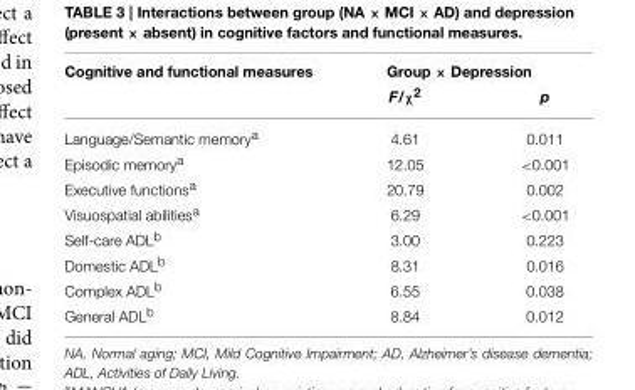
<table><thead><tr><td rowspan="2">Cognitive and functional measures</td><td colspan="2">Group × Depression</td></tr><tr><td>F/χ<sup>2</sup></td><td>p</td></tr></thead><tbody><tr><td>Language/Semantic memory<sup>a</sup></td><td>4.61</td><td>0.011</td></tr><tr><td>Episodic memory<sup>a</sup></td><td>12.05</td><td>&lt;0.001</td></tr><tr><td>Executive functions<sup>a</sup></td><td>20.79</td><td>0.002</td></tr><tr><td>Visuospatial abilities<sup>a</sup></td><td>6.29</td><td>&lt;0.001</td></tr><tr><td>Self-care ADL<sup>b</sup></td><td>3.00</td><td>0.223</td></tr><tr><td>Domestic ADL<sup>b</sup></td><td>8.31</td><td>0.016</td></tr><tr><td>Complex ADL<sup>b</sup></td><td>6.55</td><td>0.038</td></tr><tr><td>General ADL<sup>b</sup></td><td>8.84</td><td>0.012</td></tr></tbody></table>